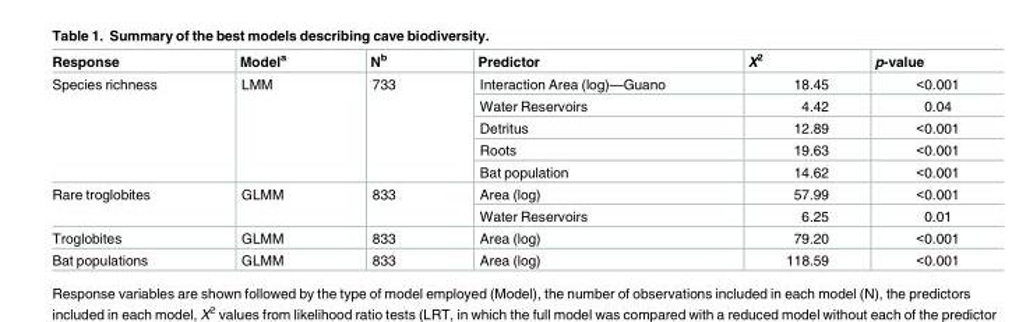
<table><thead><tr><td>Response</td><td>Model<sup>a</sup></td><td>N<sup>b</sup></td><td>Predictor</td><td>X<sup>2</sup></td><td>p-value</td></tr></thead><tbody><tr><td rowspan="5">Species richness</td><td rowspan="5">LMM</td><td rowspan="5">733</td><td>Interaction Area (log)—Guano</td><td>18.45</td><td>&lt;0.001</td></tr><tr><td>Water Reservoirs</td><td>4.42</td><td>0.04</td></tr><tr><td>Detritus</td><td>12.89</td><td>&lt;0.001</td></tr><tr><td>Roots</td><td>19.63</td><td>&lt;0.001</td></tr><tr><td>Bat population</td><td>14.62</td><td>&lt;0.001</td></tr><tr><td rowspan="2">Rare troglobites</td><td rowspan="2">GLMM</td><td rowspan="2">833</td><td>Area (log)</td><td>57.99</td><td>&lt;0.001</td></tr><tr><td>Water Reservoirs</td><td>6.25</td><td>0.01</td></tr><tr><td>Troglobites</td><td>GLMM</td><td>833</td><td>Area (log)</td><td>79.20</td><td>&lt;0.001</td></tr><tr><td>Bat populations</td><td>GLMM</td><td>833</td><td>Area (log)</td><td>118.59</td><td>&lt;0.001</td></tr></tbody></table>